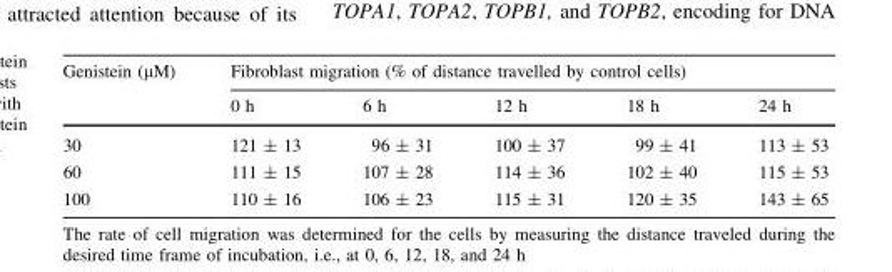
<table><thead><tr><td rowspan="2">Genistein (μM)</td><td colspan="5">Fibroblast migration (% of distance travelled by control cells)</td></tr><tr><td>0 h</td><td>6 h</td><td>12 h</td><td>18 h</td><td>24 h</td></tr></thead><tbody><tr><td>30</td><td>121 ± 13</td><td>96 ± 31</td><td>100 ± 37</td><td>99 ± 41</td><td>113 ± 53</td></tr><tr><td>60</td><td>111 ± 15</td><td>107 ± 28</td><td>114 ± 36</td><td>102 ± 40</td><td>115 ± 53</td></tr><tr><td>100</td><td>110 ± 16</td><td>106 ± 23</td><td>115 ± 31</td><td>120 ± 35</td><td>143 ± 65</td></tr></tbody></table>